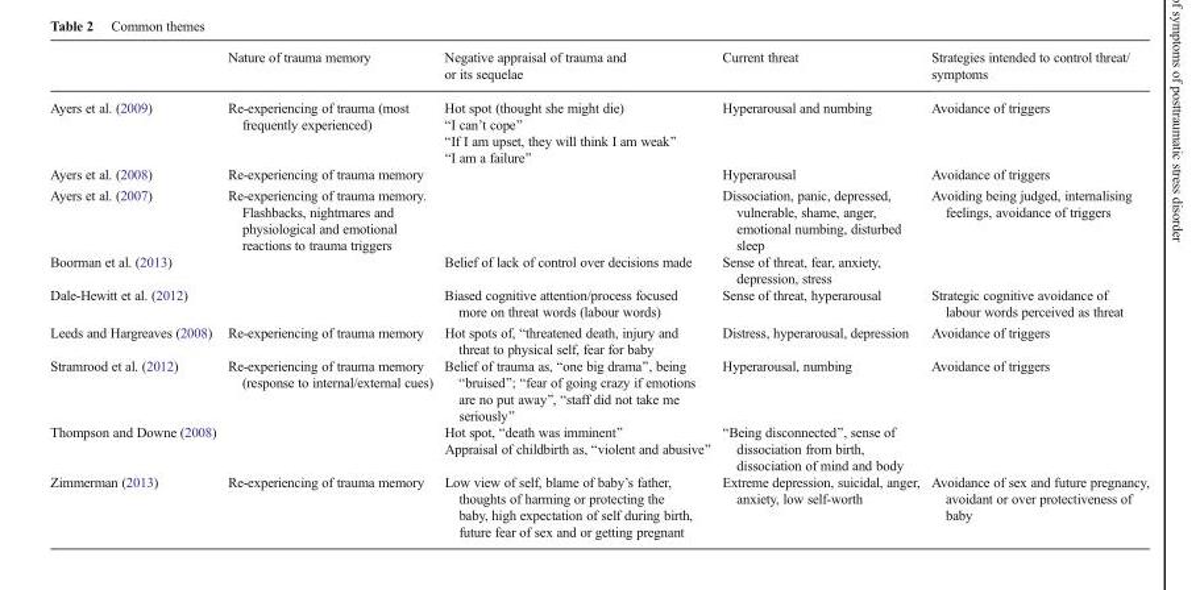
<table><thead><tr><td></td><td>Nature of trauma memory</td><td>Negative appraisal of trauma and or its sequelae</td><td>Current threat</td><td>Strategies intended to control threat/ symptoms</td></tr></thead><tbody><tr><td>Ayers et al. (2009)</td><td>Re-experiencing of trauma (most frequently experienced)</td><td>Hot spot (thought she might die) “I can’t cope” “If I am upset, they will think I am weak” “I am a failure”</td><td>Hyperarousal and numbing</td><td>Avoidance of triggers</td></tr><tr><td>Ayers et al. (2008)</td><td>Re-experiencing of trauma memory</td><td></td><td>Hyperarousal</td><td>Avoidance of triggers</td></tr><tr><td>Ayers et al. (2007)</td><td>Re-experiencing of trauma memory. Flashbacks, nightmares and physiological and emotional reactions to trauma triggers</td><td></td><td>Dissociation, panic, depressed, vulnerable, shame, anger, emotional numbing, disturbed sleep</td><td>Avoiding being judged, internalising feelings, avoidance of triggers</td></tr><tr><td>Boorman et al. (2013)</td><td></td><td>Belief of lack of control over decisions made</td><td>Sense of threat, fear, anxiety, depression, stress</td><td></td></tr><tr><td>Dale-Hewitt et al. (2012)</td><td></td><td>Biased cognitive attention/process focused more on threat words (labour words)</td><td>Sense of threat, hyperarousal</td><td>Strategic cognitive avoidance of labour words perceived as threat</td></tr><tr><td>Leeds and Hargreaves (2008)</td><td>Re-experiencing of trauma memory</td><td>Hot spots of, “threatened death, injury and threat to physical self, fear for baby</td><td>Distress, hyperarousal, depression</td><td>Avoidance of triggers</td></tr><tr><td>Stramrood et al. (2012)</td><td>Re-experiencing of trauma memory (response to internal/external cues)</td><td>Belief of trauma as, “one big drama”, being “bruised”; “fear of going crazy if emotions are no put away”, “staff did not take me seriously”</td><td>Hyperarousal, numbing</td><td>Avoidance of triggers</td></tr><tr><td>Thompson and Downe (2008)</td><td></td><td>Hot spot, “death was imminent” Appraisal of childbirth as, “violent and abusive”</td><td>“Being disconnected”, sense of dissociation from birth, dissociation of mind and body</td><td></td></tr><tr><td>Zimmerman (2013)</td><td>Re-experiencing of trauma memory</td><td>Low view of self, blame of baby’s father, thoughts of harming or protecting the baby, high expectation of self during birth, future fear of sex and or getting pregnant</td><td>Extreme depression, suicidal, anger, anxiety, low self-worth</td><td>Avoidance of sex and future pregnancy, avoidant or over protectiveness of baby</td></tr></tbody></table>